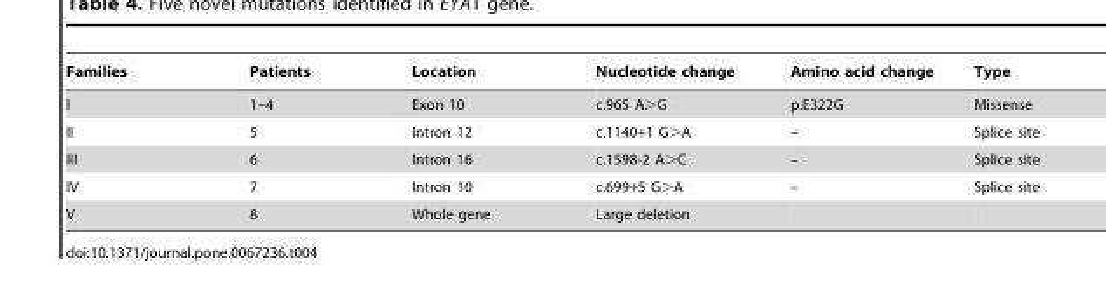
<table><thead><tr><td>Families</td><td>Patients</td><td>Location</td><td>Nucleotide change</td><td>Amino acid change</td><td>Type</td></tr></thead><tbody><tr><td>I</td><td>1–4</td><td>Exon 10</td><td>c.965 A&gt;G</td><td>p.E322G</td><td>Missense</td></tr><tr><td>II</td><td>5</td><td>Intron 12</td><td>c.1140+1 G&gt;A</td><td>–</td><td>Splice site</td></tr><tr><td>III</td><td>6</td><td>Intron 16</td><td>c.1598-2 A&gt;C</td><td>–</td><td>Splice site</td></tr><tr><td>IV</td><td>7</td><td>Intron 10</td><td>c.699+5 G&gt;A</td><td>–</td><td>Splice site</td></tr><tr><td>V</td><td>8</td><td>Whole gene</td><td>Large deletion</td><td></td><td></td></tr></tbody></table>